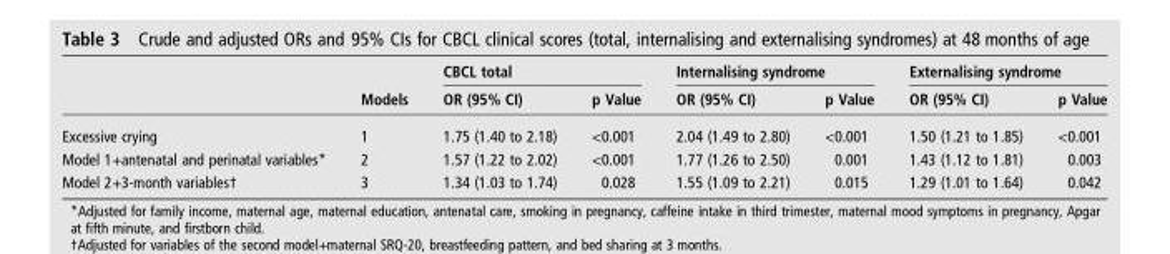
<table><thead><tr><td rowspan="2"></td><td rowspan="2">Models</td><td colspan="2">CBCL total</td><td colspan="2">Internalising syndrome</td><td colspan="2">Externalising syndrome</td></tr><tr><td>OR (95% CI)</td><td>p Value</td><td>OR (95% CI)</td><td>p Value</td><td>OR (95% CI)</td><td>p Value</td></tr></thead><tbody><tr><td>Excessive crying</td><td>1</td><td>1.75 (1.40 to 2.18)</td><td>&lt;0.001</td><td>2.04 (1.49 to 2.80)</td><td>&lt;0.001</td><td>1.50 (1.21 to 1.85)</td><td>&lt;0.001</td></tr><tr><td>Model 1+antenatal and perinatal variables*</td><td>2</td><td>1.57 (1.22 to 2.02)</td><td>&lt;0.001</td><td>1.77 (1.26 to 2.50)</td><td>0.001</td><td>1.43 (1.12 to 1.81)</td><td>0.003</td></tr><tr><td>Model 2+3-month variables†</td><td>3</td><td>1.34 (1.03 to 1.74)</td><td>0.028</td><td>1.55 (1.09 to 2.21)</td><td>0.015</td><td>1.29 (1.01 to 1.64)</td><td>0.042</td></tr></tbody></table>